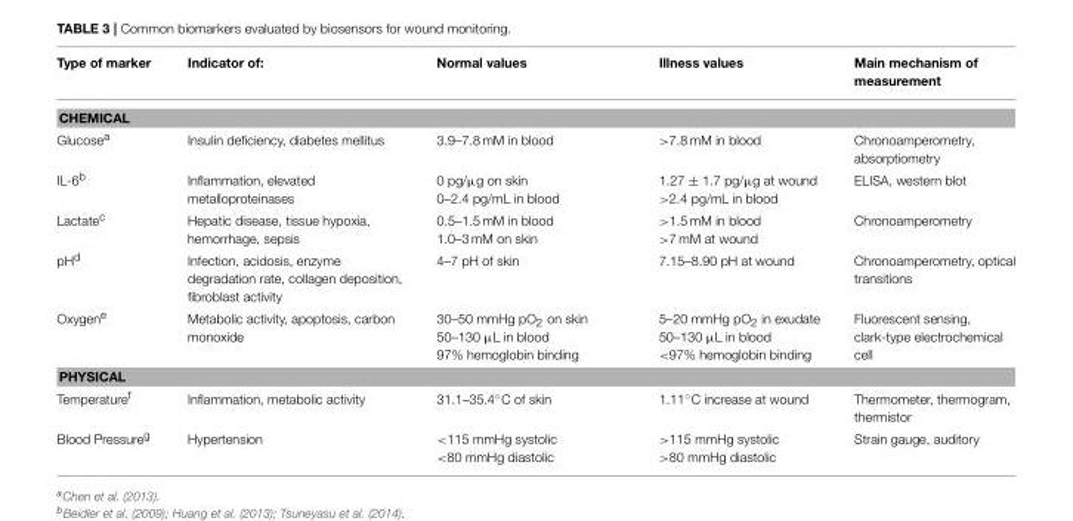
<table><thead><tr><td>Type of marker</td><td>Indicator of:</td><td>Normal values</td><td>Illness values</td><td>Main mechanism of measurement</td></tr></thead><tbody><tr><td colspan="5">CHEMICAL</td></tr><tr><td>Glucose<sup>a</sup></td><td>Insulin deficiency, diabetes mellitus</td><td>3.9–7.8 mM in blood</td><td>&gt;7.8 mM in blood</td><td>Chronoamperometry, absorptiometry</td></tr><tr><td>IL-6<sup>b</sup></td><td>Inflammation, elevated metalloproteinases</td><td>0 pg/µg on skin 0–2.4 pg/mL in blood</td><td>1.27 ± 1.7 pg/µg at wound &gt;2.4 pg/mL in blood</td><td>ELISA, western blot</td></tr><tr><td>Lactate<sup>c</sup></td><td>Hepatic disease, tissue hypoxia, hemorrhage, sepsis</td><td>0.5–1.5 mM in blood 1.0–3 mM on skin</td><td>&gt;1.5 mM in blood &gt;7 mM at wound</td><td>Chronoamperometry</td></tr><tr><td>pH<sup>d</sup></td><td>Infection, acidosis, enzyme degradation rate, collagen deposition, fibroblast activity</td><td>4–7 pH of skin</td><td>7.15–8.90 pH at wound</td><td>Chronoamperometry, optical transitions</td></tr><tr><td>Oxygen<sup>e</sup></td><td>Metabolic activity, apoptosis, carbon monoxide</td><td>30–50 mmHg pO<sub>2</sub> on skin 50–130 µL in blood 97% hemoglobin binding</td><td>5–20 mmHg pO<sub>2</sub> in exudate 50–130 µL in blood &lt;97% hemoglobin binding</td><td>Fluorescent sensing, clark-type electrochemical cell</td></tr><tr><td colspan="5">PHYSICAL</td></tr><tr><td>Temperature<sup>f</sup></td><td>Inflammation, metabolic activity</td><td>31.1–35.4◦C of skin</td><td>1.11◦C increase at wound</td><td>Thermometer, thermogram, thermistor</td></tr><tr><td>Blood Pressure<sup>g</sup></td><td>Hypertension</td><td>&lt;115 mmHg systolic &lt;80 mmHg diastolic</td><td>&gt;115 mmHg systolic &gt;80 mmHg diastolic</td><td>Strain gauge, auditory</td></tr></tbody></table>